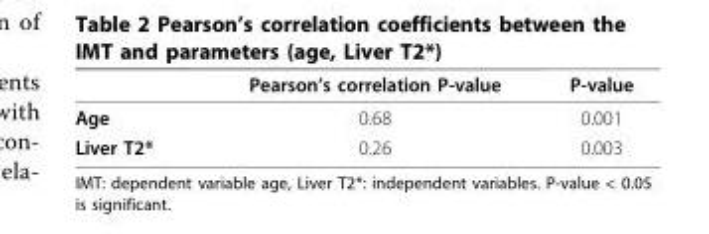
<table><thead><tr><td></td><td>Pearson’s correlation P-value</td><td>P-value</td></tr></thead><tbody><tr><td>Age</td><td>0.68</td><td>0.001</td></tr><tr><td>Liver T2*</td><td>0.26</td><td>0.003</td></tr></tbody></table>